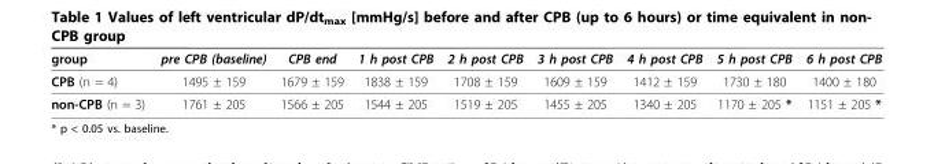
<table><thead><tr><td>group</td><td>pre CPB (baseline)</td><td>CPB end</td><td>1 h post CPB</td><td>2 h post CPB</td><td>3 h post CPB</td><td>4 h post CPB</td><td>5 h post CPB</td><td>6 h post CPB</td></tr></thead><tbody><tr><td>CPB (n = 4)</td><td>1495 ± 159</td><td>1679 ± 159</td><td>1838 ± 159</td><td>1708 ± 159</td><td>1609 ± 159</td><td>1412 ± 159</td><td>1730 ± 180</td><td>1400 ± 180</td></tr><tr><td>non-CPB (n = 3)</td><td>1761 ± 205</td><td>1566 ± 205</td><td>1544 ± 205</td><td>1519 ± 205</td><td>1455 ± 205</td><td>1340 ± 205</td><td>1170 ± 205 *</td><td>1151 ± 205 *</td></tr></tbody></table>